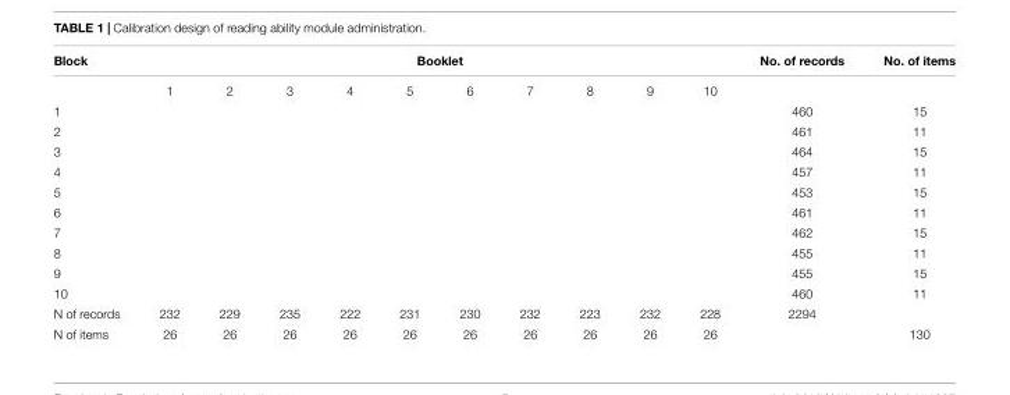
<table><thead><tr><td rowspan="2">Block</td><td colspan="10">Booklet</td><td rowspan="2">No. of records</td><td rowspan="2">No. of items</td></tr><tr><td>1</td><td>2</td><td>3</td><td>4</td><td>5</td><td>6</td><td>7</td><td>8</td><td>9</td><td>10</td></tr></thead><tbody><tr><td>1</td><td></td><td></td><td></td><td></td><td></td><td></td><td></td><td></td><td></td><td></td><td>460</td><td>15</td></tr><tr><td>2</td><td></td><td></td><td></td><td></td><td></td><td></td><td></td><td></td><td></td><td></td><td>461</td><td>11</td></tr><tr><td>3</td><td></td><td></td><td></td><td></td><td></td><td></td><td></td><td></td><td></td><td></td><td>464</td><td>15</td></tr><tr><td>4</td><td></td><td></td><td></td><td></td><td></td><td></td><td></td><td></td><td></td><td></td><td>457</td><td>11</td></tr><tr><td>5</td><td></td><td></td><td></td><td></td><td></td><td></td><td></td><td></td><td></td><td></td><td>453</td><td>15</td></tr><tr><td>6</td><td></td><td></td><td></td><td></td><td></td><td></td><td></td><td></td><td></td><td></td><td>461</td><td>11</td></tr><tr><td>7</td><td></td><td></td><td></td><td></td><td></td><td></td><td></td><td></td><td></td><td></td><td>462</td><td>15</td></tr><tr><td>8</td><td></td><td></td><td></td><td></td><td></td><td></td><td></td><td></td><td></td><td></td><td>455</td><td>11</td></tr><tr><td>9</td><td></td><td></td><td></td><td></td><td></td><td></td><td></td><td></td><td></td><td></td><td>455</td><td>15</td></tr><tr><td>10</td><td></td><td></td><td></td><td></td><td></td><td></td><td></td><td></td><td></td><td></td><td>460</td><td>11</td></tr><tr><td>N of records</td><td>232</td><td>229</td><td>235</td><td>222</td><td>231</td><td>230</td><td>232</td><td>223</td><td>232</td><td>228</td><td>2294</td><td></td></tr><tr><td>N of items</td><td>26</td><td>26</td><td>26</td><td>26</td><td>26</td><td>26</td><td>26</td><td>26</td><td>26</td><td>26</td><td></td><td>130</td></tr></tbody></table>